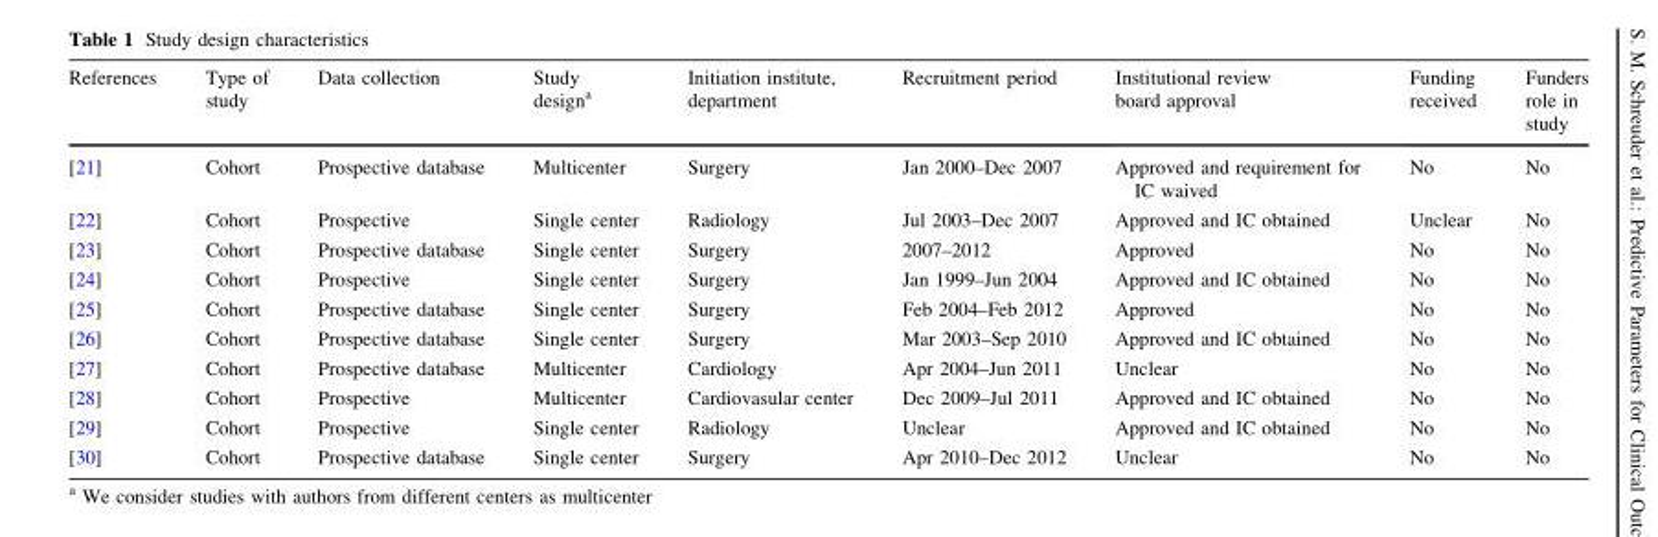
<table><thead><tr><td>References</td><td>Type of study</td><td>Data collection</td><td>Study design<sup>a</sup></td><td>Initiation institute, department</td><td>Recruitment period</td><td>Institutional review board approval</td><td>Funding received</td><td>Funders role in study</td></tr></thead><tbody><tr><td>[21]</td><td>Cohort</td><td>Prospective database</td><td>Multicenter</td><td>Surgery</td><td>Jan 2000–Dec 2007</td><td>Approved and requirement for IC waived</td><td>No</td><td>No</td></tr><tr><td>[22]</td><td>Cohort</td><td>Prospective</td><td>Single center</td><td>Radiology</td><td>Jul 2003–Dec 2007</td><td>Approved and IC obtained</td><td>Unclear</td><td>No</td></tr><tr><td>[23]</td><td>Cohort</td><td>Prospective database</td><td>Single center</td><td>Surgery</td><td>2007–2012</td><td>Approved</td><td>No</td><td>No</td></tr><tr><td>[24]</td><td>Cohort</td><td>Prospective</td><td>Single center</td><td>Surgery</td><td>Jan 1999–Jun 2004</td><td>Approved and IC obtained</td><td>No</td><td>No</td></tr><tr><td>[25]</td><td>Cohort</td><td>Prospective database</td><td>Single center</td><td>Surgery</td><td>Feb 2004–Feb 2012</td><td>Approved</td><td>No</td><td>No</td></tr><tr><td>[26]</td><td>Cohort</td><td>Prospective database</td><td>Single center</td><td>Surgery</td><td>Mar 2003–Sep 2010</td><td>Approved and IC obtained</td><td>No</td><td>No</td></tr><tr><td>[27]</td><td>Cohort</td><td>Prospective database</td><td>Multicenter</td><td>Cardiology</td><td>Apr 2004–Jun 2011</td><td>Unclear</td><td>No</td><td>No</td></tr><tr><td>[28]</td><td>Cohort</td><td>Prospective</td><td>Multicenter</td><td>Cardiovasular center</td><td>Dec 2009–Jul 2011</td><td>Approved and IC obtained</td><td>No</td><td>No</td></tr><tr><td>[29]</td><td>Cohort</td><td>Prospective</td><td>Single center</td><td>Radiology</td><td>Unclear</td><td>Approved and IC obtained</td><td>No</td><td>No</td></tr><tr><td>[30]</td><td>Cohort</td><td>Prospective database</td><td>Single center</td><td>Surgery</td><td>Apr 2010–Dec 2012</td><td>Unclear</td><td>No</td><td>No</td></tr></tbody></table>